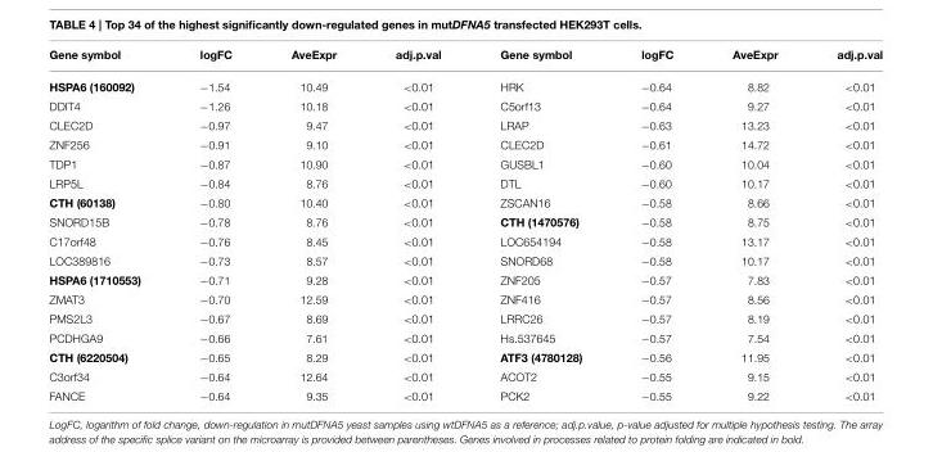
<table><thead><tr><td>Gene symbol</td><td>logFC</td><td>AveExpr</td><td>adj.p.val</td><td>Gene symbol</td><td>logFC</td><td>AveExpr</td><td>adj.p.val</td></tr></thead><tbody><tr><td>HSPA6 (160092)</td><td>−1.54</td><td>10.49</td><td>&lt;0.01</td><td>HRK</td><td>−0.64</td><td>8.82</td><td>&lt;0.01</td></tr><tr><td>DDIT4</td><td>−1.26</td><td>10.18</td><td>&lt;0.01</td><td>C5orf13</td><td>−0.64</td><td>9.27</td><td>&lt;0.01</td></tr><tr><td>CLEC2D</td><td>−0.97</td><td>9.47</td><td>&lt;0.01</td><td>LRAP</td><td>−0.63</td><td>13.23</td><td>&lt;0.01</td></tr><tr><td>ZNF256</td><td>−0.91</td><td>9.10</td><td>&lt;0.01</td><td>CLEC2D</td><td>−0.61</td><td>14.72</td><td>&lt;0.01</td></tr><tr><td>TDP1</td><td>−0.87</td><td>10.90</td><td>&lt;0.01</td><td>GUSBL1</td><td>−0.60</td><td>10.04</td><td>&lt;0.01</td></tr><tr><td>LRP5L</td><td>−0.84</td><td>8.76</td><td>&lt;0.01</td><td>DTL</td><td>−0.60</td><td>10.17</td><td>&lt;0.01</td></tr><tr><td>CTH (60138)</td><td>−0.80</td><td>10.40</td><td>&lt;0.01</td><td>ZSCAN16</td><td>−0.58</td><td>8.66</td><td>&lt;0.01</td></tr><tr><td>SNORD15B</td><td>−0.78</td><td>8.76</td><td>&lt;0.01</td><td>CTH (1470576)</td><td>−0.58</td><td>8.75</td><td>&lt;0.01</td></tr><tr><td>C17orf48</td><td>−0.76</td><td>8.45</td><td>&lt;0.01</td><td>LOC654194</td><td>−0.58</td><td>13.17</td><td>&lt;0.01</td></tr><tr><td>LOC389816</td><td>−0.73</td><td>8.57</td><td>&lt;0.01</td><td>SNORD68</td><td>−0.58</td><td>10.17</td><td>&lt;0.01</td></tr><tr><td>HSPA6 (1710553)</td><td>−0.71</td><td>9.28</td><td>&lt;0.01</td><td>ZNF205</td><td>−0.57</td><td>7.83</td><td>&lt;0.01</td></tr><tr><td>ZMAT3</td><td>−0.70</td><td>12.59</td><td>&lt;0.01</td><td>ZNF416</td><td>−0.57</td><td>8.56</td><td>&lt;0.01</td></tr><tr><td>PMS2L3</td><td>−0.67</td><td>8.69</td><td>&lt;0.01</td><td>LRRC26</td><td>−0.57</td><td>8.19</td><td>&lt;0.01</td></tr><tr><td>PCDHGA9</td><td>−0.66</td><td>7.61</td><td>&lt;0.01</td><td>Hs.537645</td><td>−0.57</td><td>7.54</td><td>&lt;0.01</td></tr><tr><td>CTH (6220504)</td><td>−0.65</td><td>8.29</td><td>&lt;0.01</td><td>ATF3 (4780128)</td><td>−0.56</td><td>11.95</td><td>&lt;0.01</td></tr><tr><td>C3orf34</td><td>−0.64</td><td>12.64</td><td>&lt;0.01</td><td>ACOT2</td><td>−0.55</td><td>9.15</td><td>&lt;0.01</td></tr><tr><td>FANCE</td><td>−0.64</td><td>9.35</td><td>&lt;0.01</td><td>PCK2</td><td>−0.55</td><td>9.22</td><td>&lt;0.01</td></tr></tbody></table>